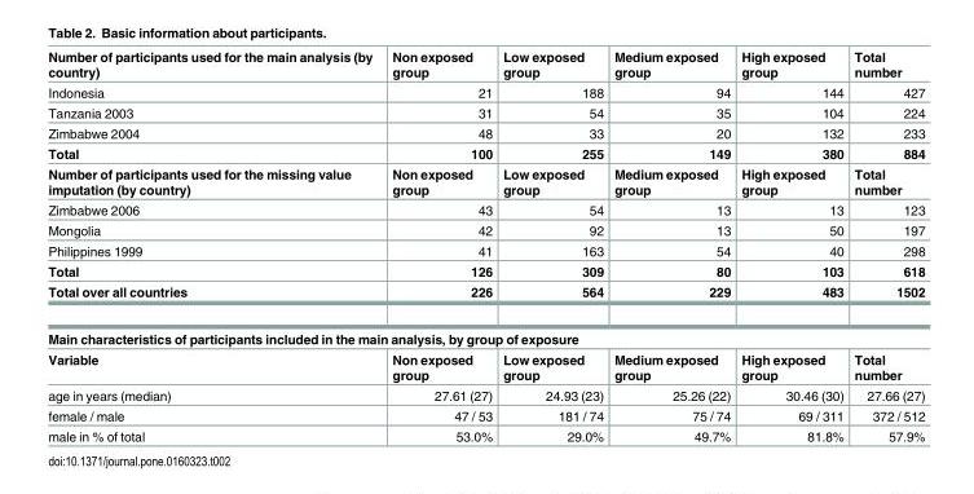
<table><tbody><tr><td>Number of participants used for the main analysis (by country)</td><td>Non exposed group</td><td>Low exposed group</td><td>Medium exposed group</td><td>High exposed group</td><td>Total number</td></tr><tr><td>Indonesia</td><td>21</td><td>188</td><td>94</td><td>144</td><td>427</td></tr><tr><td>Tanzania 2003</td><td>31</td><td>54</td><td>35</td><td>104</td><td>224</td></tr><tr><td>Zimbabwe 2004</td><td>48</td><td>33</td><td>20</td><td>132</td><td>233</td></tr><tr><td>Total</td><td>100</td><td>255</td><td>149</td><td>380</td><td>884</td></tr><tr><td>Number of participants used for the missing value imputation (by country)</td><td>Non exposed group</td><td>Low exposed group</td><td>Medium exposed group</td><td>High exposed group</td><td>Total number</td></tr><tr><td>Zimbabwe 2006</td><td>43</td><td>54</td><td>13</td><td>13</td><td>123</td></tr><tr><td>Mongolia</td><td>42</td><td>92</td><td>13</td><td>50</td><td>197</td></tr><tr><td>Philippines 1999</td><td>41</td><td>163</td><td>54</td><td>40</td><td>298</td></tr><tr><td>Total</td><td>126</td><td>309</td><td>80</td><td>103</td><td>618</td></tr><tr><td>Total over all countries</td><td>226</td><td>564</td><td>229</td><td>483</td><td>1502</td></tr><tr><td colspan="6">Main characteristics of participants included in the main analysis, by group of exposure</td></tr><tr><td>Variable</td><td>Non exposed group</td><td>Low exposed group</td><td>Medium exposed group</td><td>High exposed group</td><td>Total number</td></tr><tr><td>age in years (median)</td><td>27.61 (27)</td><td>24.93 (23)</td><td>25.26 (22)</td><td>30.46 (30)</td><td>27.66 (27)</td></tr><tr><td>female / male</td><td>47 / 53</td><td>181 / 74</td><td>75 / 74</td><td>69 / 311</td><td>372 / 512</td></tr><tr><td>male in % of total</td><td>53.0%</td><td>29.0%</td><td>49.7%</td><td>81.8%</td><td>57.9%</td></tr></tbody></table>